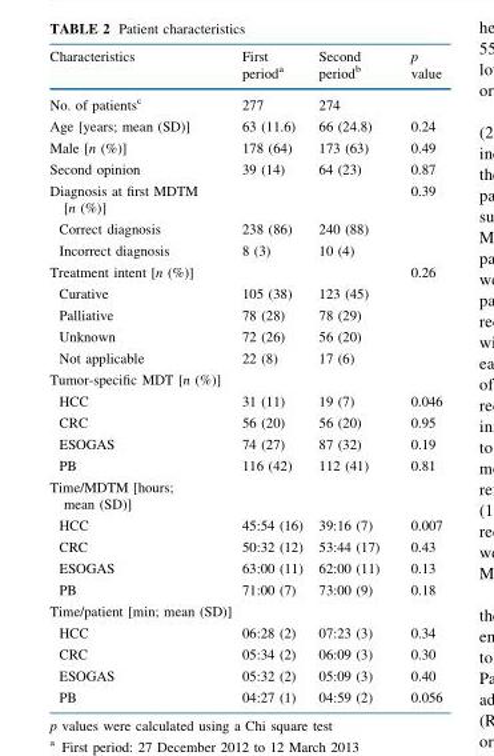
<table><thead><tr><td>Characteristics</td><td>First period<sup>a</sup></td><td>Second period<sup>b</sup></td><td>p value</td></tr></thead><tbody><tr><td>No. of patients<sup>c</sup></td><td>277</td><td>274</td><td></td></tr><tr><td>Age [years; mean (SD)]</td><td>63 (11.6)</td><td>66 (24.8)</td><td>0.24</td></tr><tr><td>Male [n (%)]</td><td>178 (64)</td><td>173 (63)</td><td>0.49</td></tr><tr><td>Second opinion</td><td>39 (14)</td><td>64 (23)</td><td>0.87</td></tr><tr><td>Diagnosis at first MDTM [n (%)]</td><td></td><td></td><td>0.39</td></tr><tr><td>Correct diagnosis</td><td>238 (86)</td><td>240 (88)</td><td></td></tr><tr><td>Incorrect diagnosis</td><td>8 (3)</td><td>10 (4)</td><td></td></tr><tr><td>Treatment intent [n (%)]</td><td></td><td></td><td>0.26</td></tr><tr><td>Curative</td><td>105 (38)</td><td>123 (45)</td><td></td></tr><tr><td>Palliative</td><td>78 (28)</td><td>78 (29)</td><td></td></tr><tr><td>Unknown</td><td>72 (26)</td><td>56 (20)</td><td></td></tr><tr><td>Not applicable</td><td>22 (8)</td><td>17 (6)</td><td></td></tr><tr><td colspan="4">Tumor-specific MDT [n (%)]</td></tr><tr><td>HCC</td><td>31 (11)</td><td>19 (7)</td><td>0.046</td></tr><tr><td>CRC</td><td>56 (20)</td><td>56 (20)</td><td>0.95</td></tr><tr><td>ESOGAS</td><td>74 (27)</td><td>87 (32)</td><td>0.19</td></tr><tr><td>PB</td><td>116 (42)</td><td>112 (41)</td><td>0.81</td></tr><tr><td colspan="4">Time/MDTM [hours; mean (SD)]</td></tr><tr><td>HCC</td><td>45:54 (16)</td><td>39:16 (7)</td><td>0.007</td></tr><tr><td>CRC</td><td>50:32 (12)</td><td>53:44 (17)</td><td>0.43</td></tr><tr><td>ESOGAS</td><td>63:00 (11)</td><td>62:00 (11)</td><td>0.13</td></tr><tr><td>PB</td><td>71:00 (7)</td><td>73:00 (9)</td><td>0.18</td></tr><tr><td colspan="4">Time/patient [min; mean (SD)]</td></tr><tr><td>HCC</td><td>06:28 (2)</td><td>07:23 (3)</td><td>0.34</td></tr><tr><td>CRC</td><td>05:34 (2)</td><td>06:09 (3)</td><td>0.30</td></tr><tr><td>ESOGAS</td><td>05:32 (2)</td><td>05:09 (3)</td><td>0.40</td></tr><tr><td>PB</td><td>04:27 (1)</td><td>04:59 (2)</td><td>0.056</td></tr></tbody></table>